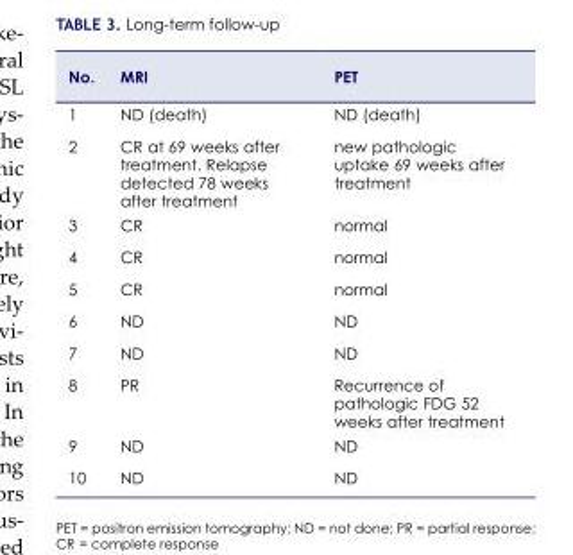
<table><thead><tr><td>No.</td><td>MRI</td><td>PET</td></tr></thead><tbody><tr><td>1</td><td>ND (death)</td><td>ND (death)</td></tr><tr><td>2</td><td>CR at 69 weeks after treatment. Relapse detected 78 weeks after treatment</td><td>new pathologic uptake 69 weeks after treatment</td></tr><tr><td>3</td><td>CR</td><td>normal</td></tr><tr><td>4</td><td>CR</td><td>normal</td></tr><tr><td>5</td><td>CR</td><td>normal</td></tr><tr><td>6</td><td>ND</td><td>ND</td></tr><tr><td>7</td><td>ND</td><td>ND</td></tr><tr><td>8</td><td>PR</td><td>Recurrence of pathologic FDG 52 weeks after treatment</td></tr><tr><td>9</td><td>ND</td><td>ND</td></tr><tr><td>10</td><td>ND</td><td>ND</td></tr></tbody></table>